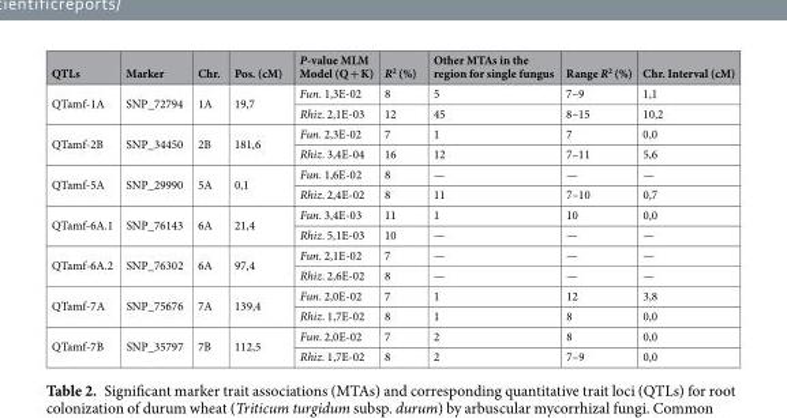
<table><thead><tr><td>QTLs</td><td>Marker</td><td>Chr.</td><td>Pos. (cM)</td><td>P-value MLM Model (Q + K)</td><td>R<sup>2</sup> (%)</td><td>Other MTAs in the region for single fungus</td><td>Range R<sup>2</sup> (%)</td><td>Chr. Interval (cM)</td></tr></thead><tbody><tr><td rowspan="2">QTamf-1A</td><td rowspan="2">SNP_72794</td><td rowspan="2">1A</td><td rowspan="2">19,7</td><td>Fun. 1,3E-02</td><td>8</td><td>5</td><td>7–9</td><td>1,1</td></tr><tr><td>Rhiz. 2,1E-03</td><td>12</td><td>45</td><td>8–15</td><td>10,2</td></tr><tr><td rowspan="2">QTamf-2B</td><td rowspan="2">SNP_34450</td><td rowspan="2">2B</td><td rowspan="2">181,6</td><td>Fun. 2,3E-02</td><td>7</td><td>1</td><td>7</td><td>0,0</td></tr><tr><td>Rhiz. 3,4E-04</td><td>16</td><td>12</td><td>7–11</td><td>5,6</td></tr><tr><td rowspan="2">QTamf-5A</td><td rowspan="2">SNP_29990</td><td rowspan="2">5A</td><td rowspan="2">0,1</td><td>Fun. 1,6E-02</td><td>8</td><td>—</td><td>—</td><td>—</td></tr><tr><td>Rhiz. 2,4E-02</td><td>8</td><td>11</td><td>7–10</td><td>0,7</td></tr><tr><td rowspan="2">QTamf-6A.1</td><td rowspan="2">SNP_76143</td><td rowspan="2">6A</td><td rowspan="2">21,4</td><td>Fun. 3,4E-03</td><td>11</td><td>1</td><td>10</td><td>0,0</td></tr><tr><td>Rhiz. 5,1E-03</td><td>10</td><td>—</td><td>—</td><td>—</td></tr><tr><td rowspan="2">QTamf-6A.2</td><td rowspan="2">SNP_76302</td><td rowspan="2">6A</td><td rowspan="2">97,4</td><td>Fun. 2,1E-02</td><td>7</td><td>—</td><td>—</td><td>—</td></tr><tr><td>Rhiz. 2,6E-02</td><td>8</td><td>—</td><td>—</td><td>—</td></tr><tr><td rowspan="2">QTamf-7A</td><td rowspan="2">SNP_75676</td><td rowspan="2">7A</td><td rowspan="2">139,4</td><td>Fun. 2,0E-02</td><td>7</td><td>1</td><td>12</td><td>3,8</td></tr><tr><td>Rhiz. 1,7E-02</td><td>8</td><td>1</td><td>8</td><td>0,0</td></tr><tr><td rowspan="2">QTamf-7B</td><td rowspan="2">SNP_35797</td><td rowspan="2">7B</td><td rowspan="2">112,5</td><td>Fun. 2,0E-02</td><td>7</td><td>2</td><td>8</td><td>0,0</td></tr><tr><td>Rhiz. 1,7E-02</td><td>8</td><td>2</td><td>7–9</td><td>0,0</td></tr></tbody></table>